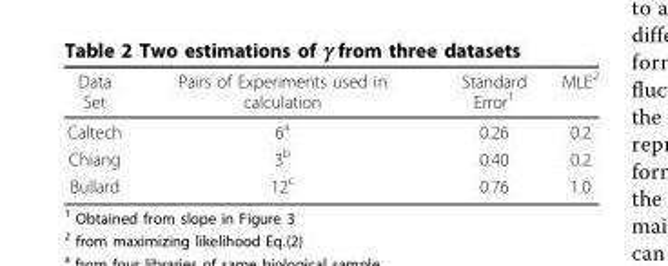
<table><thead><tr><td>Data Set</td><td>Pairs of Experiments used in calculation</td><td>Standard Error<sup>1</sup></td><td>MLE<sup>2</sup></td></tr></thead><tbody><tr><td>Caltech</td><td>6<sup>a</sup></td><td>0.26</td><td>0.2</td></tr><tr><td>Chiang</td><td>3<sup>b</sup></td><td>0.40</td><td>0.2</td></tr><tr><td>Bullard</td><td>12<sup>c</sup></td><td>0.76</td><td>1.0</td></tr></tbody></table>